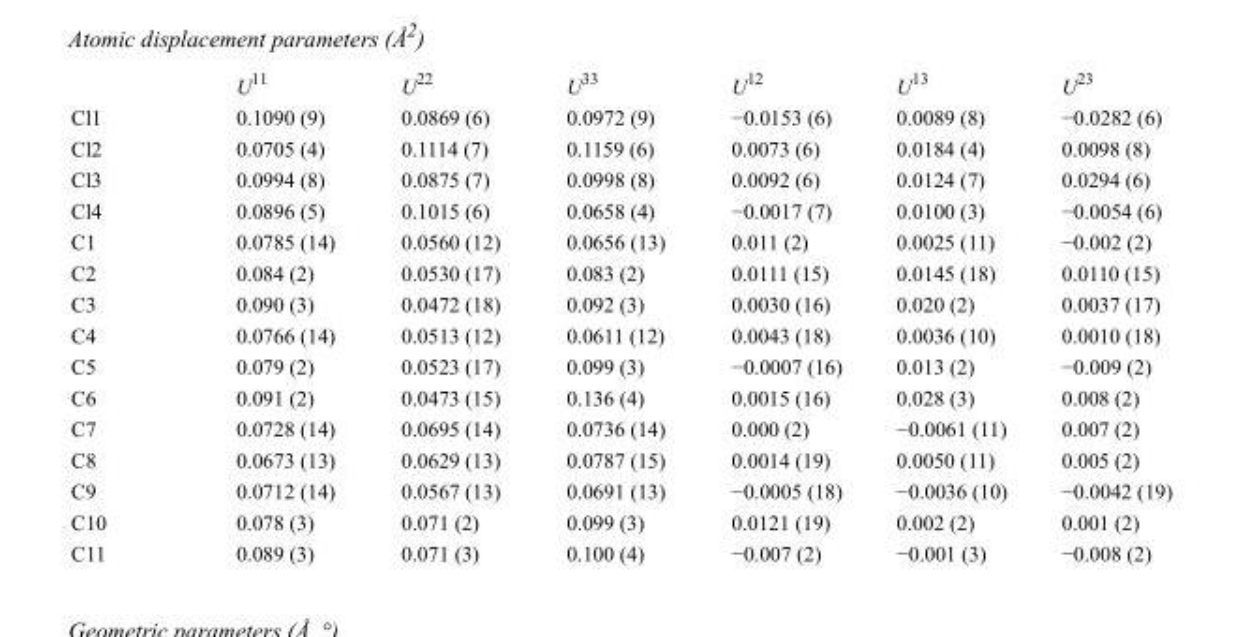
<table><thead><tr><td></td><td>U<sup>11</sup></td><td>U<sup>22</sup></td><td>U<sup>33</sup></td><td>U<sup>12</sup></td><td>U<sup>13</sup></td><td>U<sup>23</sup></td></tr></thead><tbody><tr><td>Cl1</td><td>0.1090 (9)</td><td>0.0869 (6)</td><td>0.0972 (9)</td><td>−0.0153 (6)</td><td>0.0089 (8)</td><td>−0.0282 (6)</td></tr><tr><td>Cl2</td><td>0.0705 (4)</td><td>0.1114 (7)</td><td>0.1159 (6)</td><td>0.0073 (6)</td><td>0.0184 (4)</td><td>0.0098 (8)</td></tr><tr><td>Cl3</td><td>0.0994 (8)</td><td>0.0875 (7)</td><td>0.0998 (8)</td><td>0.0092 (6)</td><td>0.0124 (7)</td><td>0.0294 (6)</td></tr><tr><td>Cl4</td><td>0.0896 (5)</td><td>0.1015 (6)</td><td>0.0658 (4)</td><td>−0.0017 (7)</td><td>0.0100 (3)</td><td>−0.0054 (6)</td></tr><tr><td>C1</td><td>0.0785 (14)</td><td>0.0560 (12)</td><td>0.0656 (13)</td><td>0.011 (2)</td><td>0.0025 (11)</td><td>−0.002 (2)</td></tr><tr><td>C2</td><td>0.084 (2)</td><td>0.0530 (17)</td><td>0.083 (2)</td><td>0.0111 (15)</td><td>0.0145 (18)</td><td>0.0110 (15)</td></tr><tr><td>C3</td><td>0.090 (3)</td><td>0.0472 (18)</td><td>0.092 (3)</td><td>0.0030 (16)</td><td>0.020 (2)</td><td>0.0037 (17)</td></tr><tr><td>C4</td><td>0.0766 (14)</td><td>0.0513 (12)</td><td>0.0611 (12)</td><td>0.0043 (18)</td><td>0.0036 (10)</td><td>0.0010 (18)</td></tr><tr><td>C5</td><td>0.079 (2)</td><td>0.0523 (17)</td><td>0.099 (3)</td><td>−0.0007 (16)</td><td>0.013 (2)</td><td>−0.009 (2)</td></tr><tr><td>C6</td><td>0.091 (2)</td><td>0.0473 (15)</td><td>0.136 (4)</td><td>0.0015 (16)</td><td>0.028 (3)</td><td>0.008 (2)</td></tr><tr><td>C7</td><td>0.0728 (14)</td><td>0.0695 (14)</td><td>0.0736 (14)</td><td>0.000 (2)</td><td>−0.0061 (11)</td><td>0.007 (2)</td></tr><tr><td>C8</td><td>0.0673 (13)</td><td>0.0629 (13)</td><td>0.0787 (15)</td><td>0.0014 (19)</td><td>0.0050 (11)</td><td>0.005 (2)</td></tr><tr><td>C9</td><td>0.0712 (14)</td><td>0.0567 (13)</td><td>0.0691 (13)</td><td>−0.0005 (18)</td><td>−0.0036 (10)</td><td>−0.0042 (19)</td></tr><tr><td>C10</td><td>0.078 (3)</td><td>0.071 (2)</td><td>0.099 (3)</td><td>0.0121 (19)</td><td>0.002 (2)</td><td>0.001 (2)</td></tr><tr><td>C11</td><td>0.089 (3)</td><td>0.071 (3)</td><td>0.100 (4)</td><td>−0.007 (2)</td><td>−0.001 (3)</td><td>−0.008 (2)</td></tr></tbody></table>